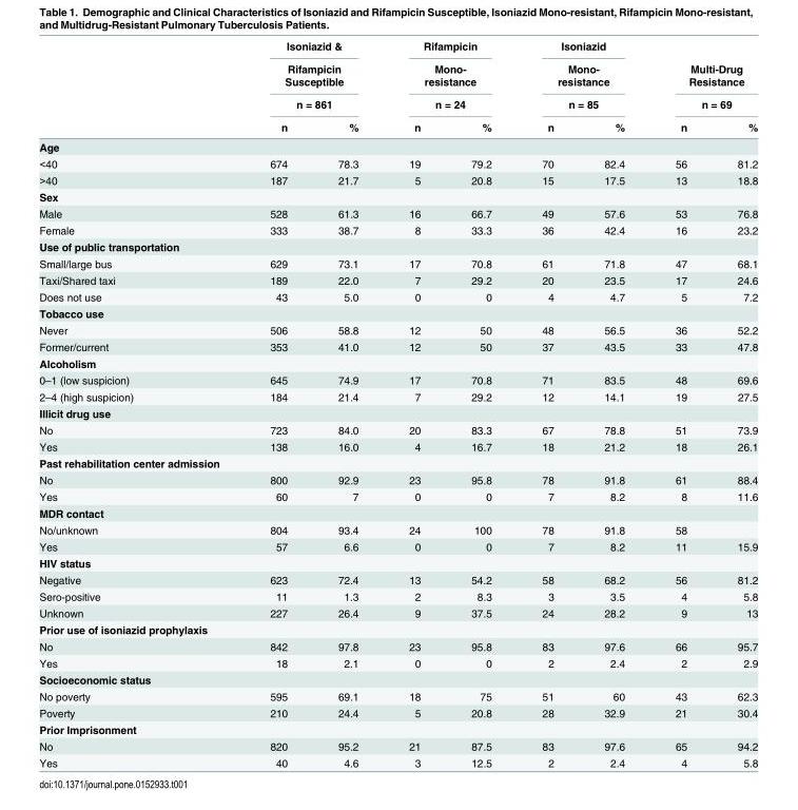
<table><thead><tr><td rowspan="4"></td><td rowspan="3" colspan="2">Isoniazid &amp; Rifampicin Susceptible n = 861</td><td rowspan="3" colspan="2">Rifampicin Mono- resistance n = 24</td><td rowspan="3" colspan="2">Isoniazid Mono- resistance n = 85</td><td></td><td></td></tr><tr><td rowspan="2" colspan="2">Multi-Drug Resistance n = 69</td></tr><tr></tr><tr><td>n</td><td>%</td><td>n</td><td>%</td><td>n</td><td>%</td><td>n</td><td>%</td></tr></thead><tbody><tr><td colspan="9">Age</td></tr><tr><td>&lt;40</td><td>674</td><td>78.3</td><td>19</td><td>79.2</td><td>70</td><td>82.4</td><td>56</td><td>81.2</td></tr><tr><td>&gt;40</td><td>187</td><td>21.7</td><td>5</td><td>20.8</td><td>15</td><td>17.5</td><td>13</td><td>18.8</td></tr><tr><td colspan="9">Sex</td></tr><tr><td>Male</td><td>528</td><td>61.3</td><td>16</td><td>66.7</td><td>49</td><td>57.6</td><td>53</td><td>76.8</td></tr><tr><td>Female</td><td>333</td><td>38.7</td><td>8</td><td>33.3</td><td>36</td><td>42.4</td><td>16</td><td>23.2</td></tr><tr><td colspan="9">Use of public transportation</td></tr><tr><td>Small/large bus</td><td>629</td><td>73.1</td><td>17</td><td>70.8</td><td>61</td><td>71.8</td><td>47</td><td>68.1</td></tr><tr><td>Taxi/Shared taxi</td><td>189</td><td>22.0</td><td>7</td><td>29.2</td><td>20</td><td>23.5</td><td>17</td><td>24.6</td></tr><tr><td>Does not use</td><td>43</td><td>5.0</td><td>0</td><td>0</td><td>4</td><td>4.7</td><td>5</td><td>7.2</td></tr><tr><td colspan="9">Tobacco use</td></tr><tr><td>Never</td><td>506</td><td>58.8</td><td>12</td><td>50</td><td>48</td><td>56.5</td><td>36</td><td>52.2</td></tr><tr><td>Former/current</td><td>353</td><td>41.0</td><td>12</td><td>50</td><td>37</td><td>43.5</td><td>33</td><td>47.8</td></tr><tr><td colspan="9">Alcoholism</td></tr><tr><td>0–1 (low suspicion)</td><td>645</td><td>74.9</td><td>17</td><td>70.8</td><td>71</td><td>83.5</td><td>48</td><td>69.6</td></tr><tr><td>2–4 (high suspicion)</td><td>184</td><td>21.4</td><td>7</td><td>29.2</td><td>12</td><td>14.1</td><td>19</td><td>27.5</td></tr><tr><td colspan="9">Illicit drug use</td></tr><tr><td>No</td><td>723</td><td>84.0</td><td>20</td><td>83.3</td><td>67</td><td>78.8</td><td>51</td><td>73.9</td></tr><tr><td>Yes</td><td>138</td><td>16.0</td><td>4</td><td>16.7</td><td>18</td><td>21.2</td><td>18</td><td>26.1</td></tr><tr><td colspan="9">Past rehabilitation center admission</td></tr><tr><td>No</td><td>800</td><td>92.9</td><td>23</td><td>95.8</td><td>78</td><td>91.8</td><td>61</td><td>88.4</td></tr><tr><td>Yes</td><td>60</td><td>7</td><td>0</td><td>0</td><td>7</td><td>8.2</td><td>8</td><td>11.6</td></tr><tr><td colspan="9">MDR contact</td></tr><tr><td>No/unknown</td><td>804</td><td>93.4</td><td>24</td><td>100</td><td>78</td><td>91.8</td><td>58</td><td></td></tr><tr><td>Yes</td><td>57</td><td>6.6</td><td>0</td><td>0</td><td>7</td><td>8.2</td><td>11</td><td>15.9</td></tr><tr><td colspan="9">HIV status</td></tr><tr><td>Negative</td><td>623</td><td>72.4</td><td>13</td><td>54.2</td><td>58</td><td>68.2</td><td>56</td><td>81.2</td></tr><tr><td>Sero-positive</td><td>11</td><td>1.3</td><td>2</td><td>8.3</td><td>3</td><td>3.5</td><td>4</td><td>5.8</td></tr><tr><td>Unknown</td><td>227</td><td>26.4</td><td>9</td><td>37.5</td><td>24</td><td>28.2</td><td>9</td><td>13</td></tr><tr><td colspan="9">Prior use of isoniazid prophylaxis</td></tr><tr><td>No</td><td>842</td><td>97.8</td><td>23</td><td>95.8</td><td>83</td><td>97.6</td><td>66</td><td>95.7</td></tr><tr><td>Yes</td><td>18</td><td>2.1</td><td>0</td><td>0</td><td>2</td><td>2.4</td><td>2</td><td>2.9</td></tr><tr><td colspan="9">Socioeconomic status</td></tr><tr><td>No poverty</td><td>595</td><td>69.1</td><td>18</td><td>75</td><td>51</td><td>60</td><td>43</td><td>62.3</td></tr><tr><td>Poverty</td><td>210</td><td>24.4</td><td>5</td><td>20.8</td><td>28</td><td>32.9</td><td>21</td><td>30.4</td></tr><tr><td colspan="9">Prior Imprisonment</td></tr><tr><td>No</td><td>820</td><td>95.2</td><td>21</td><td>87.5</td><td>83</td><td>97.6</td><td>65</td><td>94.2</td></tr><tr><td>Yes</td><td>40</td><td>4.6</td><td>3</td><td>12.5</td><td>2</td><td>2.4</td><td>4</td><td>5.8</td></tr></tbody></table>